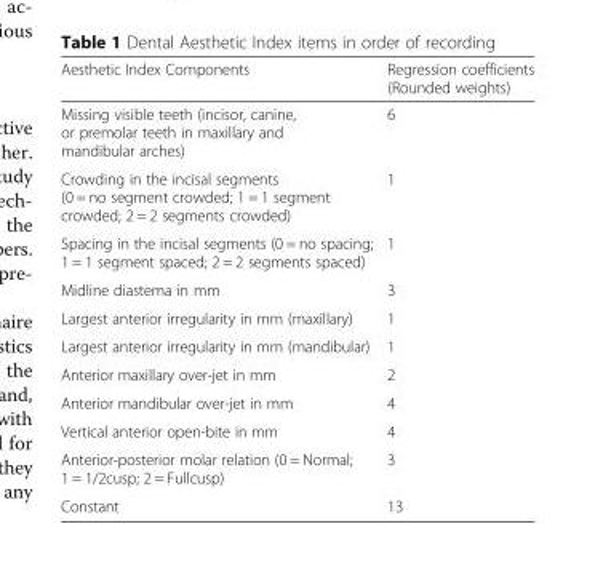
<table><thead><tr><td>Aesthetic Index Components</td><td>Regression coefficients (Rounded weights)</td></tr></thead><tbody><tr><td>Missing visible teeth (incisor, canine, or premolar teeth in maxillary and mandibular arches)</td><td>6</td></tr><tr><td>Crowding in the incisal segments (0 = no segment crowded; 1 = 1 segment crowded; 2 = 2 segments crowded)</td><td>1</td></tr><tr><td>Spacing in the incisal segments (0 = no spacing; 1 = 1 segment spaced; 2 = 2 segments spaced)</td><td>1</td></tr><tr><td>Midline diastema in mm</td><td>3</td></tr><tr><td>Largest anterior irregularity in mm (maxillary)</td><td>1</td></tr><tr><td>Largest anterior irregularity in mm (mandibular)</td><td>1</td></tr><tr><td>Anterior maxillary over-jet in mm</td><td>2</td></tr><tr><td>Anterior mandibular over-jet in mm</td><td>4</td></tr><tr><td>Vertical anterior open-bite in mm</td><td>4</td></tr><tr><td>Anterior-posterior molar relation (0 = Normal; 1 = 1/2cusp; 2 = Fullcusp)</td><td>3</td></tr><tr><td>Constant</td><td>13</td></tr></tbody></table>